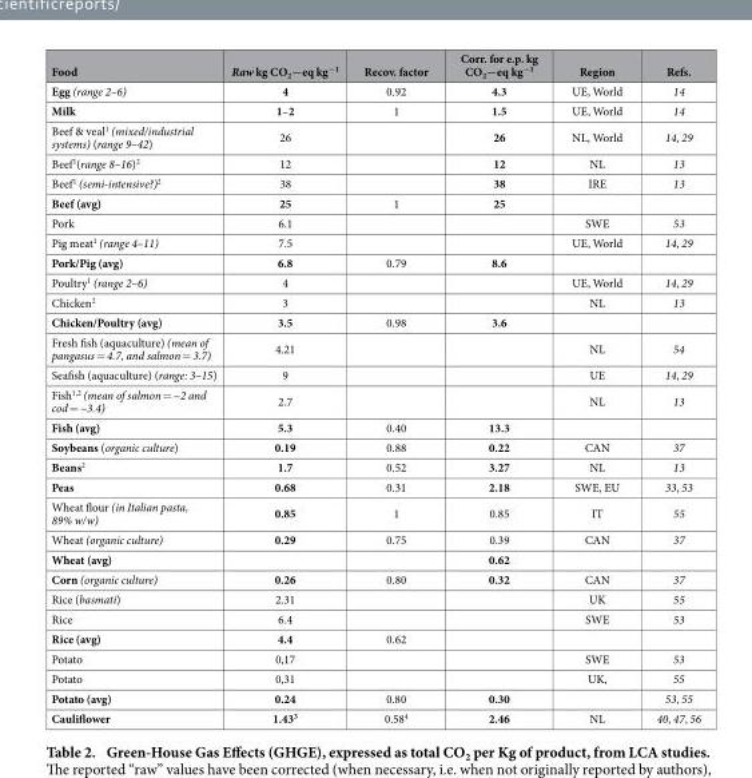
<table><thead><tr><td>Food</td><td>Raw kg CO<sub>2</sub>−eq kg<sup>−1</sup></td><td>Recov. factor</td><td>Corr. for e.p. kg CO<sub>2</sub>−eq kg<sup>−1</sup></td><td>Region</td><td>Refs.</td></tr></thead><tbody><tr><td>Egg (range 2–6)</td><td>4</td><td>0.92</td><td>4.3</td><td>UE, World</td><td>14</td></tr><tr><td>Milk</td><td>1–2</td><td>1</td><td>1.5</td><td>UE, World</td><td>14</td></tr><tr><td>Beef &amp; veal<sup>1</sup> (mixed/industrial systems) (range 9–42)</td><td>26</td><td></td><td>26</td><td>NL, World</td><td>14, 29</td></tr><tr><td>Beef<sup>1</sup>(range 8–16)<sup>2</sup></td><td>12</td><td></td><td>12</td><td>NL</td><td>13</td></tr><tr><td>Beef<sup>1</sup> (semi-intensive?)<sup>2</sup></td><td>38</td><td></td><td>38</td><td>IRE</td><td>13</td></tr><tr><td>Beef (avg)</td><td>25</td><td>1</td><td>25</td><td></td><td></td></tr><tr><td>Pork</td><td>6.1</td><td></td><td></td><td>SWE</td><td>53</td></tr><tr><td>Pig meat<sup>1</sup> (range 4–11)</td><td>7.5</td><td></td><td></td><td>UE, World</td><td>14, 29</td></tr><tr><td>Pork/Pig (avg)</td><td>6.8</td><td>0.79</td><td>8.6</td><td></td><td></td></tr><tr><td>Poultry<sup>1</sup> (range 2–6)</td><td>4</td><td></td><td></td><td>UE, World</td><td>14, 29</td></tr><tr><td>Chicken<sup>2</sup></td><td>3</td><td></td><td></td><td>NL</td><td>13</td></tr><tr><td>Chicken/Poultry (avg)</td><td>3.5</td><td>0.98</td><td>3.6</td><td></td><td></td></tr><tr><td>Fresh fish (aquaculture) (mean of pangasus = 4.7, and salmon = 3.7)</td><td>4.21</td><td></td><td></td><td>NL</td><td>54</td></tr><tr><td>Seafish (aquaculture) (range: 3–15)</td><td>9</td><td></td><td></td><td>UE</td><td>14, 29</td></tr><tr><td>Fish<sup>1</sup>,<sup>2</sup> (mean of salmon = ~2 and cod = ~3.4)</td><td>2.7</td><td></td><td></td><td>NL</td><td>13</td></tr><tr><td>Fish (avg)</td><td>5.3</td><td>0.40</td><td>13.3</td><td></td><td></td></tr><tr><td>Soybeans (organic culture)</td><td>0.19</td><td>0.88</td><td>0.22</td><td>CAN</td><td>37</td></tr><tr><td>Beans<sup>2</sup></td><td>1.7</td><td>0.52</td><td>3.27</td><td>NL</td><td>13</td></tr><tr><td>Peas</td><td>0.68</td><td>0.31</td><td>2.18</td><td>SWE, EU</td><td>33, 53</td></tr><tr><td>Wheat flour (in Italian pasta, 89% w/w)</td><td>0.85</td><td>1</td><td>0.85</td><td>IT</td><td>55</td></tr><tr><td>Wheat (organic culture)</td><td>0.29</td><td>0.75</td><td>0.39</td><td>CAN</td><td>37</td></tr><tr><td>Wheat (avg)</td><td></td><td></td><td>0.62</td><td></td><td></td></tr><tr><td>Corn (organic culture)</td><td>0.26</td><td>0.80</td><td>0.32</td><td>CAN</td><td>37</td></tr><tr><td>Rice (basmati)</td><td>2.31</td><td></td><td></td><td>UK</td><td>55</td></tr><tr><td>Rice</td><td>6.4</td><td></td><td></td><td>SWE</td><td>53</td></tr><tr><td>Rice (avg)</td><td>4.4</td><td>0.62</td><td></td><td></td><td></td></tr><tr><td>Potato</td><td>0,17</td><td></td><td></td><td>SWE</td><td>53</td></tr><tr><td>Potato</td><td>0,31</td><td></td><td></td><td>UK,</td><td>55</td></tr><tr><td>Potato (avg)</td><td>0.24</td><td>0.80</td><td>0.30</td><td></td><td>53, 55</td></tr><tr><td>Cauliflower</td><td>1.43<sup>3</sup></td><td>0.58<sup>4</sup></td><td>2.46</td><td>NL</td><td>40, 47, 56</td></tr></tbody></table>